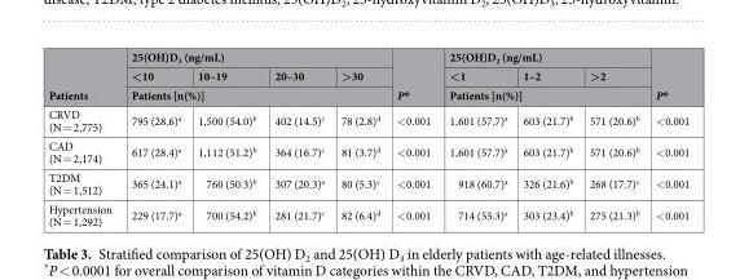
<table><thead><tr><td rowspan="3">Patients</td><td colspan="4">25(OH)D<sub>3</sub> (ng/mL)</td><td rowspan="3">P*</td><td colspan="3">25(OH)D<sub>2</sub> (ng/mL)</td><td rowspan="3">P*</td></tr><tr><td>&lt;10</td><td>10–19</td><td>20–30</td><td>&gt;30</td><td>&lt;1</td><td>1–2</td><td>&gt;2</td></tr><tr><td colspan="4">Patients [n(%)]</td><td colspan="3">Patients [n(%)]</td></tr></thead><tbody><tr><td>CRVD (N = 2,775)</td><td>795 (28.6)<sup>a</sup></td><td>1,500 (54.0)<sup>b</sup></td><td>402 (14.5)<sup>c</sup></td><td>78 (2.8)<sup>d</sup></td><td>&lt;0.001</td><td>1,601 (57.7)<sup>a</sup></td><td>603 (21.7)<sup>b</sup></td><td>571 (20.6)<sup>b</sup></td><td>&lt;0.001</td></tr><tr><td>CAD (N = 2,174)</td><td>617 (28.4)<sup>a</sup></td><td>1,112 (51.2)<sup>b</sup></td><td>364 (16.7)<sup>c</sup></td><td>81 (3.7)<sup>d</sup></td><td>&lt;0.001</td><td>1,601 (57.7)<sup>a</sup></td><td>603 (21.7)<sup>b</sup></td><td>571 (20.6)<sup>b</sup></td><td>&lt;0.001</td></tr><tr><td>T2DM (N = 1,512)</td><td>365 (24.1)<sup>a</sup></td><td>760 (50.3)<sup>b</sup></td><td>307 (20.3)<sup>a</sup></td><td>80 (5.3)<sup>c</sup></td><td>&lt;0.001</td><td>918 (60.7)<sup>a</sup></td><td>326 (21.6)<sup>b</sup></td><td>268 (17.7)<sup>c</sup></td><td>&lt;0.001</td></tr><tr><td>Hypertension (N = 1,292)</td><td>229 (17.7)<sup>a</sup></td><td>700 (54.2)<sup>b</sup></td><td>281 (21.7)<sup>c</sup></td><td>82 (6.4)<sup>d</sup></td><td>&lt;0.001</td><td>714 (55.3)<sup>a</sup></td><td>303 (23.4)<sup>b</sup></td><td>275 (21.3)<sup>b</sup></td><td>&lt;0.001</td></tr></tbody></table>